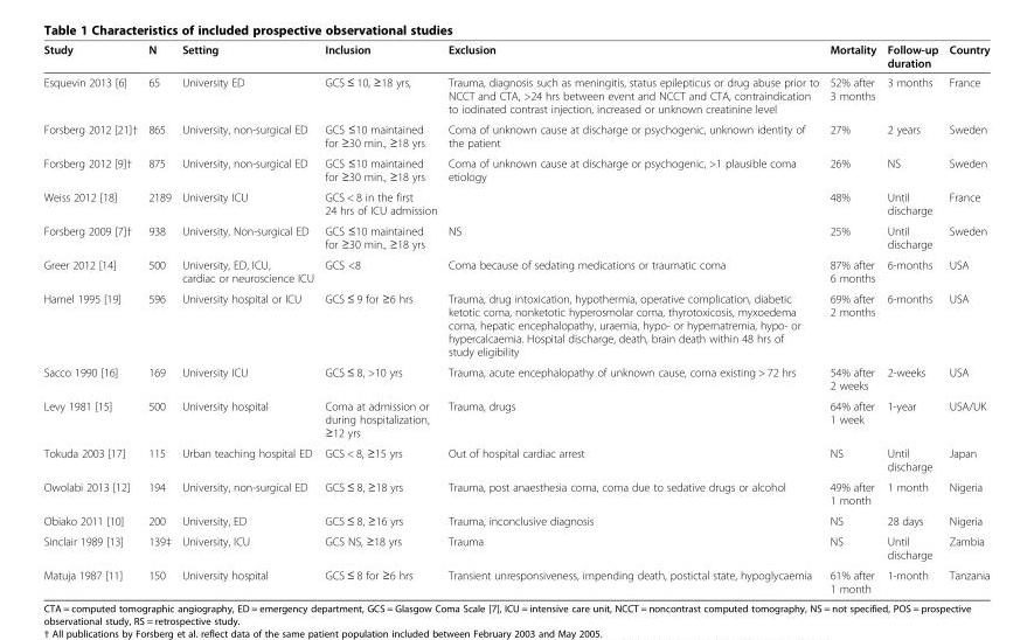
<table><thead><tr><td>Study</td><td>N</td><td>Setting</td><td>Inclusion</td><td>Exclusion</td><td>Mortality</td><td>Follow-up duration</td><td>Country</td></tr></thead><tbody><tr><td>Esquevin 2013 [6]</td><td>65</td><td>University ED</td><td>GCS ≤ 10, ≥18 yrs,</td><td>Trauma, diagnosis such as meningitis, status epilepticus or drug abuse prior to NCCT and CTA, &gt;24 hrs between event and NCCT and CTA, contraindication to iodinated contrast injection, increased or unknown creatinine level</td><td>52% after 3 months</td><td>3 months</td><td>France</td></tr><tr><td>Forsberg 2012 [21]†</td><td>865</td><td>University, non-surgical ED</td><td>GCS ≤10 maintained for ≥30 min., ≥18 yrs</td><td>Coma of unknown cause at discharge or psychogenic, unknown identity of the patient</td><td>27%</td><td>2 years</td><td>Sweden</td></tr><tr><td>Forsberg 2012 [9]†</td><td>875</td><td>University, non-surgical ED</td><td>GCS ≤10 maintained for ≥30 min., ≥18 yrs</td><td>Coma of unknown cause at discharge or psychogenic, &gt;1 plausible coma etiology</td><td>26%</td><td>NS</td><td>Sweden</td></tr><tr><td>Weiss 2012 [18]</td><td>2189</td><td>University ICU</td><td>GCS &lt; 8 in the first 24 hrs of ICU admission</td><td></td><td>48%</td><td>Until discharge</td><td>France</td></tr><tr><td>Forsberg 2009 [7]†</td><td>938</td><td>University, Non-surgical ED</td><td>GCS ≤10 maintained for ≥30 min., ≥18 yrs</td><td>NS</td><td>25%</td><td>Until discharge</td><td>Sweden</td></tr><tr><td>Greer 2012 [14]</td><td>500</td><td>University, ED, ICU, cardiac or neuroscience ICU</td><td>GCS &lt;8</td><td>Coma because of sedating medications or traumatic coma</td><td>87% after 6 months</td><td>6-months</td><td>USA</td></tr><tr><td>Hamel 1995 [19]</td><td>596</td><td>University hospital or ICU</td><td>GCS ≤ 9 for ≥6 hrs</td><td>Trauma, drug intoxication, hypothermia, operative complication, diabetic ketotic coma, nonketotic hyperosmolar coma, thyrotoxicosis, myxoedema coma, hepatic encephalopathy, uraemia, hypo- or hypernatremia, hypo- or hypercalcaemia. Hospital discharge, death, brain death within 48 hrs of study eligibility</td><td>69% after 2 months</td><td>6-months</td><td>USA</td></tr><tr><td>Sacco 1990 [16]</td><td>169</td><td>University ICU</td><td>GCS ≤ 8, &gt;10 yrs</td><td>Trauma, acute encephalopathy of unknown cause, coma existing &gt; 72 hrs</td><td>54% after 2 weeks</td><td>2-weeks</td><td>USA</td></tr><tr><td>Levy 1981 [15]</td><td>500</td><td>University hospital</td><td>Coma at admission or during hospitalization, ≥12 yrs</td><td>Trauma, drugs</td><td>64% after 1 week</td><td>1-year</td><td>USA/UK</td></tr><tr><td>Tokuda 2003 [17]</td><td>115</td><td>Urban teaching hospital ED</td><td>GCS &lt; 8, ≥15 yrs</td><td>Out of hospital cardiac arrest</td><td>NS</td><td>Until discharge</td><td>Japan</td></tr><tr><td>Owolabi 2013 [12]</td><td>194</td><td>University, non-surgical ED</td><td>GCS ≤ 8, ≥18 yrs</td><td>Trauma, post anaesthesia coma, coma due to sedative drugs or alcohol</td><td>49% after 1 month</td><td>1 month</td><td>Nigeria</td></tr><tr><td>Obiako 2011 [10]</td><td>200</td><td>University, ED</td><td>GCS ≤ 8, ≥16 yrs</td><td>Trauma, inconclusive diagnosis</td><td>NS</td><td>28 days</td><td>Nigeria</td></tr><tr><td>Sinclair 1989 [13]</td><td>139‡</td><td>University, ICU</td><td>GCS NS, ≥18 yrs</td><td>Trauma</td><td>NS</td><td>Until discharge</td><td>Zambia</td></tr><tr><td>Matuja 1987 [11]</td><td>150</td><td>University hospital</td><td>GCS ≤ 8 for ≥6 hrs</td><td>Transient unresponsiveness, impending death, postictal state, hypoglycaemia</td><td>61% after 1 month</td><td>1-month</td><td>Tanzania</td></tr></tbody></table>